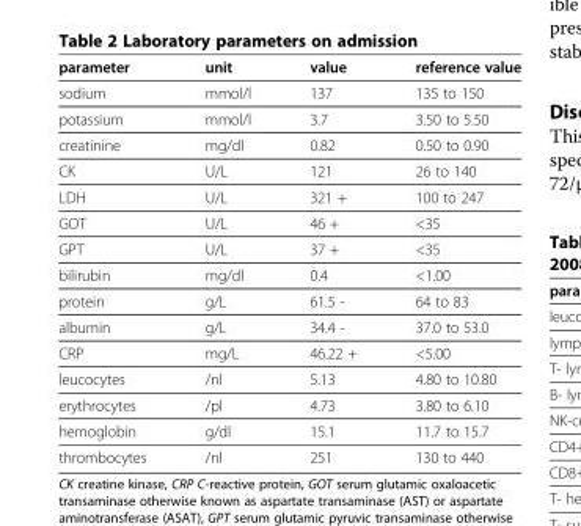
<table><thead><tr><td>parameter</td><td>unit</td><td>value</td><td>reference value</td></tr></thead><tbody><tr><td>sodium</td><td>mmol/l</td><td>137</td><td>135 to 150</td></tr><tr><td>potassium</td><td>mmol/l</td><td>3.7</td><td>3.50 to 5.50</td></tr><tr><td>creatinine</td><td>mg/dl</td><td>0.82</td><td>0.50 to 0.90</td></tr><tr><td>CK</td><td>U/L</td><td>121</td><td>26 to 140</td></tr><tr><td>LDH</td><td>U/L</td><td>321 +</td><td>100 to 247</td></tr><tr><td>GOT</td><td>U/L</td><td>46 +</td><td>&lt;35</td></tr><tr><td>GPT</td><td>U/L</td><td>37 +</td><td>&lt;35</td></tr><tr><td>bilirubin</td><td>mg/dl</td><td>0.4</td><td>&lt;1.00</td></tr><tr><td>protein</td><td>g/L</td><td>61.5 -</td><td>64 to 83</td></tr><tr><td>albumin</td><td>g/L</td><td>34.4 -</td><td>37.0 to 53.0</td></tr><tr><td>CRP</td><td>mg/L</td><td>46.22 +</td><td>&lt;5.00</td></tr><tr><td>leucocytes</td><td>/nl</td><td>5.13</td><td>4.80 to 10.80</td></tr><tr><td>erythrocytes</td><td>/pl</td><td>4.73</td><td>3.80 to 6.10</td></tr><tr><td>hemoglobin</td><td>g/dl</td><td>15.1</td><td>11.7 to 15.7</td></tr><tr><td>thrombocytes</td><td>/nl</td><td>251</td><td>130 to 440</td></tr></tbody></table>